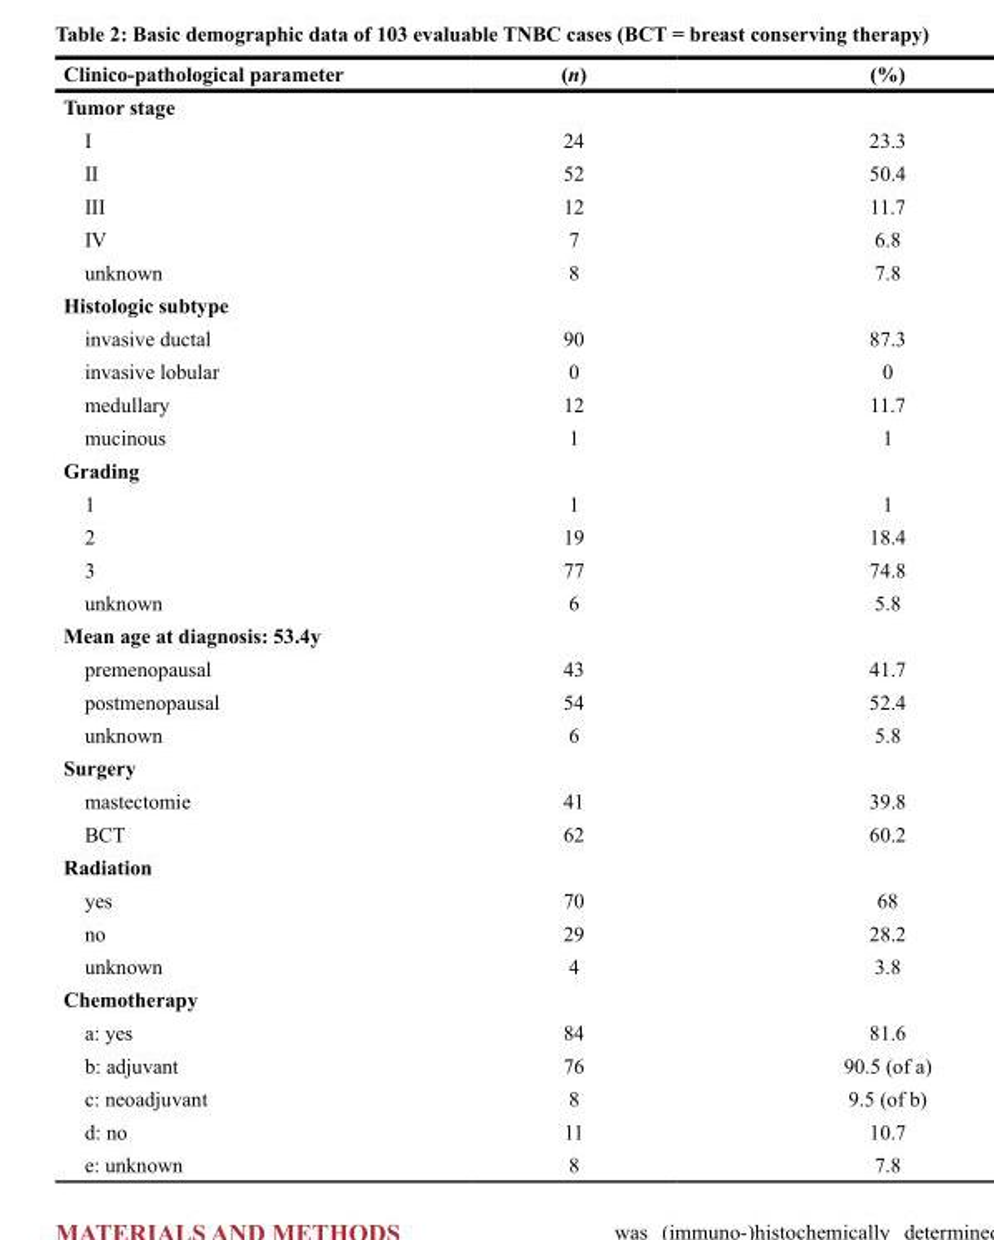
<table><thead><tr><td>Clinico-pathological parameter</td><td>(n)</td><td>(%)</td></tr></thead><tbody><tr><td colspan="3">Tumor stage</td></tr><tr><td>I</td><td>24</td><td>23.3</td></tr><tr><td>II</td><td>52</td><td>50.4</td></tr><tr><td>III</td><td>12</td><td>11.7</td></tr><tr><td>IV</td><td>7</td><td>6.8</td></tr><tr><td>unknown</td><td>8</td><td>7.8</td></tr><tr><td colspan="3">Histologic subtype</td></tr><tr><td>invasive ductal</td><td>90</td><td>87.3</td></tr><tr><td>invasive lobular</td><td>0</td><td>0</td></tr><tr><td>medullary</td><td>12</td><td>11.7</td></tr><tr><td>mucinous</td><td>1</td><td>1</td></tr><tr><td colspan="3">Grading</td></tr><tr><td>1</td><td>1</td><td>1</td></tr><tr><td>2</td><td>19</td><td>18.4</td></tr><tr><td>3</td><td>77</td><td>74.8</td></tr><tr><td>unknown</td><td>6</td><td>5.8</td></tr><tr><td colspan="3">Mean age at diagnosis: 53.4y</td></tr><tr><td>premenopausal</td><td>43</td><td>41.7</td></tr><tr><td>postmenopausal</td><td>54</td><td>52.4</td></tr><tr><td>unknown</td><td>6</td><td>5.8</td></tr><tr><td colspan="3">Surgery</td></tr><tr><td>mastectomie</td><td>41</td><td>39.8</td></tr><tr><td>BCT</td><td>62</td><td>60.2</td></tr><tr><td colspan="3">Radiation</td></tr><tr><td>yes</td><td>70</td><td>68</td></tr><tr><td>no</td><td>29</td><td>28.2</td></tr><tr><td>unknown</td><td>4</td><td>3.8</td></tr><tr><td colspan="3">Chemotherapy</td></tr><tr><td>a: yes</td><td>84</td><td>81.6</td></tr><tr><td>b: adjuvant</td><td>76</td><td>90.5 (of a)</td></tr><tr><td>c: neoadjuvant</td><td>8</td><td>9.5 (of b)</td></tr><tr><td>d: no</td><td>11</td><td>10.7</td></tr><tr><td>e: unknown</td><td>8</td><td>7.8</td></tr></tbody></table>